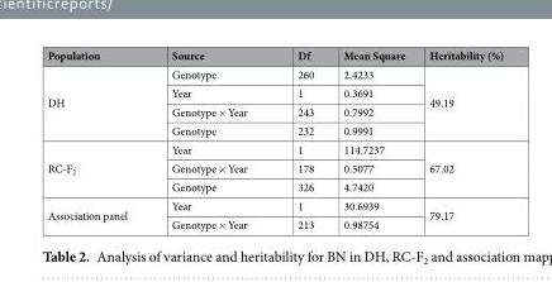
<table><thead><tr><td>Population</td><td>Source</td><td>Df</td><td>Mean Square</td><td>Heritability (%)</td></tr></thead><tbody><tr><td rowspan="4">DH</td><td>Genotype</td><td>260</td><td>2.4233</td><td rowspan="4">49.19</td></tr><tr><td>Year</td><td>1</td><td>0.3691</td></tr><tr><td>Genotype × Year</td><td>243</td><td>0.7992</td></tr><tr><td>Genotype</td><td>232</td><td>0.9991</td></tr><tr><td rowspan="3">RC-F<sub>2</sub></td><td>Year</td><td>1</td><td>114.7237</td><td rowspan="3">67.02</td></tr><tr><td>Genotype × Year</td><td>178</td><td>0.5077</td></tr><tr><td>Genotype</td><td>326</td><td>4.7420</td></tr><tr><td rowspan="2">Association panel</td><td>Year</td><td>1</td><td>30.6939</td><td rowspan="2">79.17</td></tr><tr><td>Genotype × Year</td><td>213</td><td>0.98754</td></tr></tbody></table>